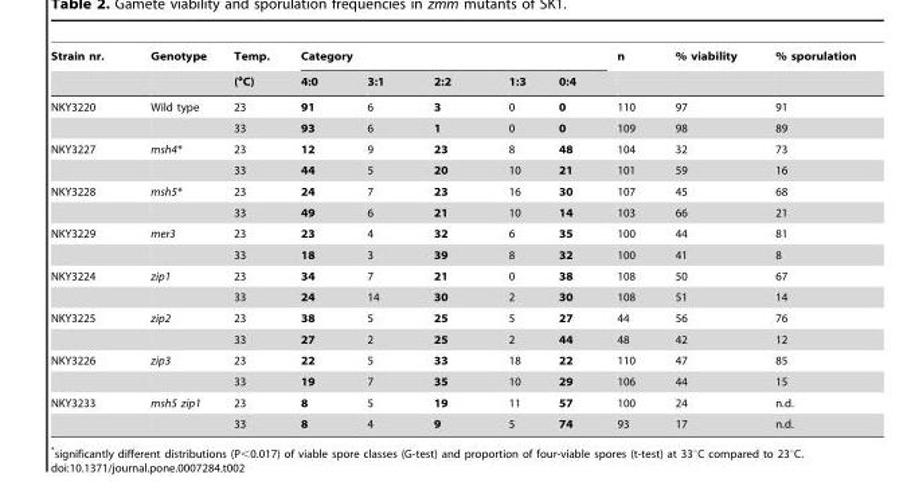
<table><thead><tr><td rowspan="2">Strain nr.</td><td rowspan="2">Genotype</td><td rowspan="2">Temp. (°C)</td><td colspan="5">Category</td><td rowspan="2">n</td><td rowspan="2">% viability</td><td rowspan="2">% sporulation</td></tr><tr><td>4:0</td><td>3:1</td><td>2:2</td><td>1:3</td><td>0:4</td></tr></thead><tbody><tr><td rowspan="2">NKY3220</td><td>Wild type</td><td>23</td><td>91</td><td>6</td><td>3</td><td>0</td><td>0</td><td>110</td><td>97</td><td>91</td></tr><tr><td></td><td>33</td><td>93</td><td>6</td><td>1</td><td>0</td><td>0</td><td>109</td><td>98</td><td>89</td></tr><tr><td rowspan="2">NKY3227</td><td>msh4*</td><td>23</td><td>12</td><td>9</td><td>23</td><td>8</td><td>48</td><td>104</td><td>32</td><td>73</td></tr><tr><td></td><td>33</td><td>44</td><td>5</td><td>20</td><td>10</td><td>21</td><td>101</td><td>59</td><td>16</td></tr><tr><td rowspan="2">NKY3228</td><td>msh5*</td><td>23</td><td>24</td><td>7</td><td>23</td><td>16</td><td>30</td><td>107</td><td>45</td><td>68</td></tr><tr><td></td><td>33</td><td>49</td><td>6</td><td>21</td><td>10</td><td>14</td><td>103</td><td>66</td><td>21</td></tr><tr><td rowspan="2">NKY3229</td><td>mer3</td><td>23</td><td>23</td><td>4</td><td>32</td><td>6</td><td>35</td><td>100</td><td>44</td><td>81</td></tr><tr><td></td><td>33</td><td>18</td><td>3</td><td>39</td><td>8</td><td>32</td><td>100</td><td>41</td><td>8</td></tr><tr><td rowspan="2">NKY3224</td><td>zip1</td><td>23</td><td>34</td><td>7</td><td>21</td><td>0</td><td>38</td><td>108</td><td>50</td><td>67</td></tr><tr><td></td><td>33</td><td>24</td><td>14</td><td>30</td><td>2</td><td>30</td><td>108</td><td>51</td><td>14</td></tr><tr><td rowspan="2">NKY3225</td><td>zip2</td><td>23</td><td>38</td><td>5</td><td>25</td><td>5</td><td>27</td><td>44</td><td>56</td><td>76</td></tr><tr><td></td><td>33</td><td>27</td><td>2</td><td>25</td><td>2</td><td>44</td><td>48</td><td>42</td><td>12</td></tr><tr><td rowspan="2">NKY3226</td><td>zip3</td><td>23</td><td>22</td><td>5</td><td>33</td><td>18</td><td>22</td><td>110</td><td>47</td><td>85</td></tr><tr><td></td><td>33</td><td>19</td><td>7</td><td>35</td><td>10</td><td>29</td><td>106</td><td>44</td><td>15</td></tr><tr><td rowspan="2">NKY3233</td><td>msh5 zip1</td><td>23</td><td>8</td><td>5</td><td>19</td><td>11</td><td>57</td><td>100</td><td>24</td><td>n.d.</td></tr><tr><td></td><td>33</td><td>8</td><td>4</td><td>9</td><td>5</td><td>74</td><td>93</td><td>17</td><td>n.d.</td></tr></tbody></table>